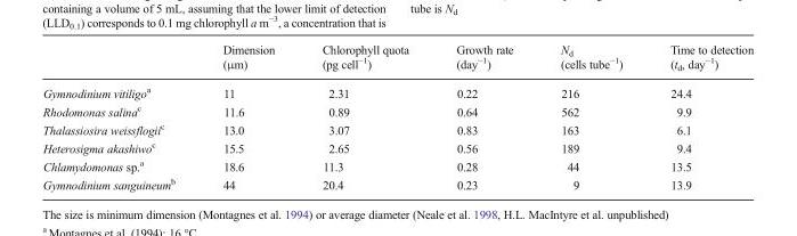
<table><thead><tr><td></td><td>Dimension (μm)</td><td>Chlorophyll quota (pg cell<sup>−1</sup>)</td><td>Growth rate (day<sup>−1</sup>)</td><td>N<sub>d</sub> (cells tube<sup>−1</sup>)</td><td>Time to detection (t<sub>d</sub>, day<sup>−1</sup>)</td></tr></thead><tbody><tr><td>Gymnodinium vitiligo<sup>a</sup></td><td>11</td><td>2.31</td><td>0.22</td><td>216</td><td>24.4</td></tr><tr><td>Rhodomonas salina<sup>c</sup></td><td>11.6</td><td>0.89</td><td>0.64</td><td>562</td><td>9.9</td></tr><tr><td>Thalassiosira weissflogii<sup>c</sup></td><td>13.0</td><td>3.07</td><td>0.83</td><td>163</td><td>6.1</td></tr><tr><td>Heterosigma akashiwo<sup>c</sup></td><td>15.5</td><td>2.65</td><td>0.56</td><td>189</td><td>9.4</td></tr><tr><td>Chlamydomonas sp.<sup>a</sup></td><td>18.6</td><td>11.3</td><td>0.28</td><td>44</td><td>13.5</td></tr><tr><td>Gymnodinium sanguineum<sup>b</sup></td><td>44</td><td>20.4</td><td>0.23</td><td>9</td><td>13.9</td></tr></tbody></table>